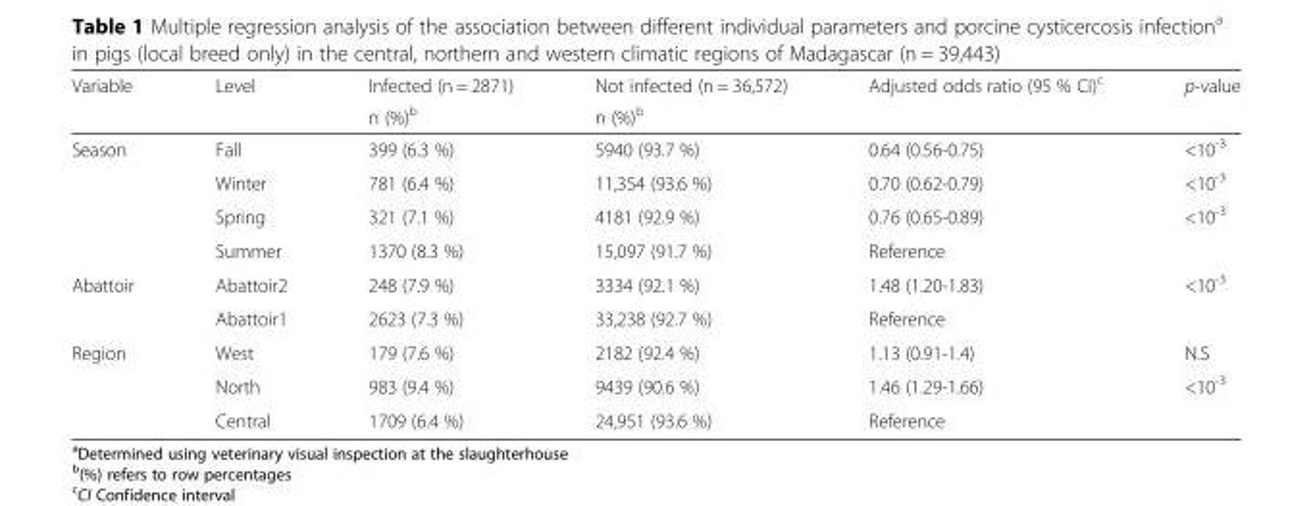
<table><thead><tr><td rowspan="2">Variable</td><td rowspan="2">Level</td><td rowspan="2">Infected (n = 2871) n (%)<sup>b</sup></td><td rowspan="2">Not infected (n = 36,572) n (%)<sup>b</sup></td><td rowspan="2">Adjusted odds ratio (95 % CI)<sup>c</sup></td><td rowspan="2">p-value</td></tr><tr></tr></thead><tbody><tr><td rowspan="4">Season</td><td>Fall</td><td>399 (6.3 %)</td><td>5940 (93.7 %)</td><td>0.64 (0.56-0.75)</td><td>&lt;10<sup>-3</sup></td></tr><tr><td>Winter</td><td>781 (6.4 %)</td><td>11,354 (93.6 %)</td><td>0.70 (0.62-0.79)</td><td>&lt;10<sup>-3</sup></td></tr><tr><td>Spring</td><td>321 (7.1 %)</td><td>4181 (92.9 %)</td><td>0.76 (0.65-0.89)</td><td>&lt;10<sup>-3</sup></td></tr><tr><td>Summer</td><td>1370 (8.3 %)</td><td>15,097 (91.7 %)</td><td>Reference</td><td></td></tr><tr><td rowspan="2">Abattoir</td><td>Abattoir2</td><td>248 (7.9 %)</td><td>3334 (92.1 %)</td><td>1.48 (1.20-1.83)</td><td>&lt;10<sup>-3</sup></td></tr><tr><td>Abattoir1</td><td>2623 (7.3 %)</td><td>33,238 (92.7 %)</td><td>Reference</td><td></td></tr><tr><td rowspan="3">Region</td><td>West</td><td>179 (7.6 %)</td><td>2182 (92.4 %)</td><td>1.13 (0.91-1.4)</td><td>N.S</td></tr><tr><td>North</td><td>983 (9.4 %)</td><td>9439 (90.6 %)</td><td>1.46 (1.29-1.66)</td><td>&lt;10<sup>-3</sup></td></tr><tr><td>Central</td><td>1709 (6.4 %)</td><td>24,951 (93.6 %)</td><td>Reference</td><td></td></tr></tbody></table>